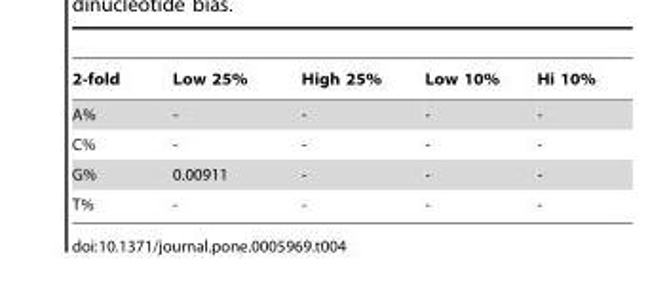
<table><thead><tr><td>2-fold</td><td>Low 25%</td><td>High 25%</td><td>Low 10%</td><td>Hi 10%</td></tr></thead><tbody><tr><td>A%</td><td>-</td><td>-</td><td>-</td><td>-</td></tr><tr><td>C%</td><td>-</td><td>-</td><td>-</td><td>-</td></tr><tr><td>G%</td><td>0.00911</td><td>-</td><td>-</td><td>-</td></tr><tr><td>T%</td><td>-</td><td>-</td><td>-</td><td>-</td></tr></tbody></table>